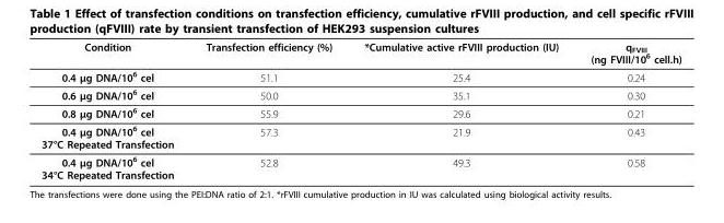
<table><thead><tr><td>Condition</td><td>Transfection efficiency (%)</td><td>*Cumulative active rFVIII production (IU)</td><td>q<sub>FVIII</sub> (ng FVIII/10<sup>6</sup> cell.h)</td></tr></thead><tbody><tr><td>0.4 μg DNA/10<sup>6</sup> cel</td><td>51.1</td><td>25.4</td><td>0.24</td></tr><tr><td>0.6 μg DNA/10<sup>6</sup> cel</td><td>50.0</td><td>35.1</td><td>0.30</td></tr><tr><td>0.8 μg DNA/10<sup>6</sup> cel</td><td>55.9</td><td>29.6</td><td>0.21</td></tr><tr><td>0.4 μg DNA/10<sup>6</sup> cel 37°C Repeated Transfection</td><td>57.3</td><td>21.9</td><td>0.43</td></tr><tr><td>0.4 μg DNA/10<sup>6</sup> cel 34°C Repeated Transfection</td><td>52.8</td><td>49.3</td><td>0.58</td></tr></tbody></table>